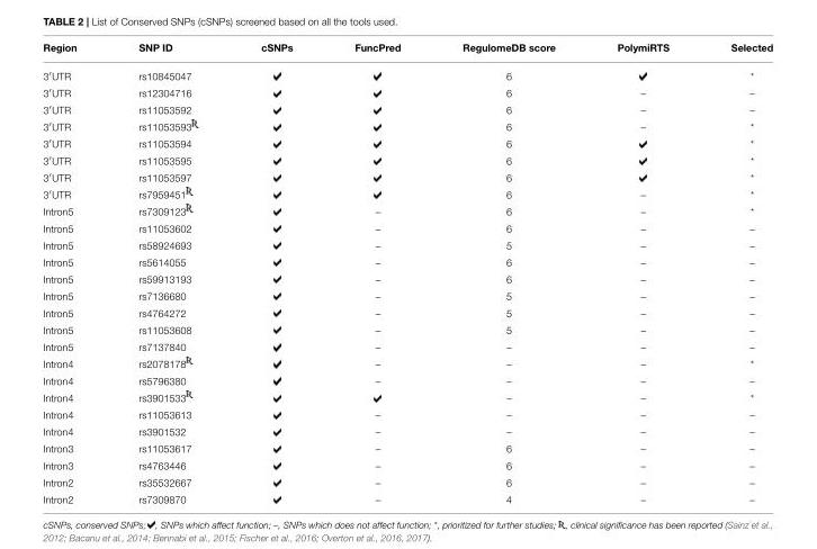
<table><thead><tr><td>Region</td><td>SNP ID</td><td>cSNPs</td><td>FuncPred</td><td>RegulomeDB score</td><td>PolymiRTS</td><td>Selected</td></tr></thead><tbody><tr><td>3′UTR</td><td>rs10845047</td><td></td><td></td><td>6</td><td></td><td>*</td></tr><tr><td>3′UTR</td><td>rs12304716</td><td></td><td></td><td>6</td><td>–</td><td>–</td></tr><tr><td>3′UTR</td><td>rs11053592</td><td></td><td></td><td>6</td><td>–</td><td>–</td></tr><tr><td>3′UTR</td><td>rs11053593</td><td></td><td></td><td>6</td><td>–</td><td>*</td></tr><tr><td>3′UTR</td><td>rs11053594</td><td></td><td></td><td>6</td><td></td><td>*</td></tr><tr><td>3′UTR</td><td>rs11053595</td><td></td><td></td><td>6</td><td></td><td>*</td></tr><tr><td>3′UTR</td><td>rs11053597</td><td></td><td></td><td>6</td><td></td><td>*</td></tr><tr><td>3′UTR</td><td>rs7959451</td><td></td><td></td><td>6</td><td>–</td><td>*</td></tr><tr><td>Intron5</td><td>rs7309123</td><td></td><td>–</td><td>6</td><td>–</td><td>*</td></tr><tr><td>Intron5</td><td>rs11053602</td><td></td><td>–</td><td>6</td><td>–</td><td>–</td></tr><tr><td>Intron5</td><td>rs58924693</td><td></td><td>–</td><td>5</td><td>–</td><td>–</td></tr><tr><td>Intron5</td><td>rs5614055</td><td></td><td>–</td><td>6</td><td>–</td><td>–</td></tr><tr><td>Intron5</td><td>rs59913193</td><td></td><td>–</td><td>6</td><td>–</td><td>–</td></tr><tr><td>Intron5</td><td>rs7136680</td><td></td><td>–</td><td>5</td><td>–</td><td>–</td></tr><tr><td>Intron5</td><td>rs4764272</td><td></td><td>–</td><td>5</td><td>–</td><td>–</td></tr><tr><td>Intron5</td><td>rs11053608</td><td></td><td>–</td><td>5</td><td>–</td><td>–</td></tr><tr><td>Intron5</td><td>rs7137840</td><td></td><td>–</td><td>–</td><td>–</td><td>–</td></tr><tr><td>Intron4</td><td>rs2078178</td><td></td><td>–</td><td>–</td><td>–</td><td>*</td></tr><tr><td>Intron4</td><td>rs5796380</td><td></td><td>–</td><td>–</td><td>–</td><td>–</td></tr><tr><td>Intron4</td><td>rs3901533</td><td></td><td></td><td>–</td><td>–</td><td>*</td></tr><tr><td>Intron4</td><td>rs11053613</td><td></td><td>–</td><td>–</td><td>–</td><td>–</td></tr><tr><td>Intron4</td><td>rs3901532</td><td></td><td>–</td><td>–</td><td>–</td><td>–</td></tr><tr><td>Intron3</td><td>rs11053617</td><td></td><td>–</td><td>6</td><td>–</td><td>–</td></tr><tr><td>Intron3</td><td>rs4763446</td><td></td><td>–</td><td>6</td><td>–</td><td>–</td></tr><tr><td>Intron2</td><td>rs35532667</td><td></td><td>–</td><td>6</td><td>–</td><td>–</td></tr><tr><td>Intron2</td><td>rs7309870</td><td></td><td>–</td><td>4</td><td>–</td><td>–</td></tr></tbody></table>